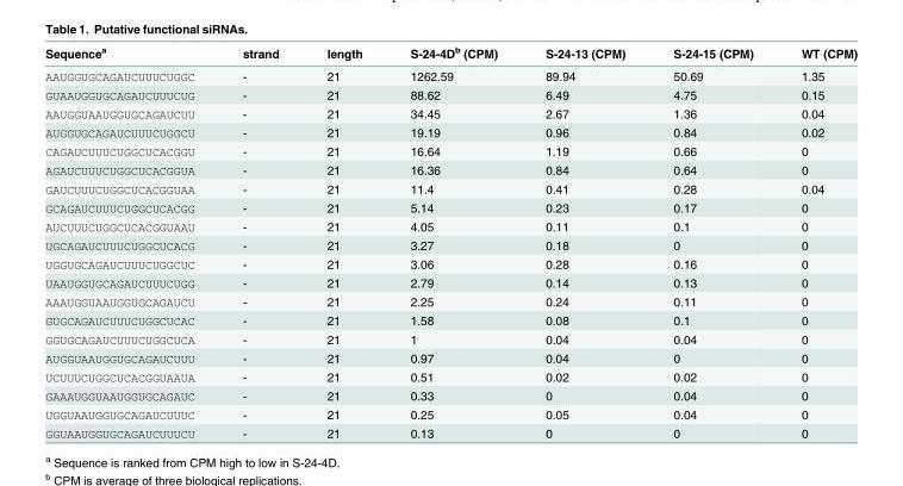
<table><thead><tr><td>Sequence<sup>a</sup></td><td>strand</td><td>length</td><td>S-24-4D<sup>b</sup> (CPM)</td><td>S-24-13 (CPM)</td><td>S-24-15 (CPM)</td><td>WT (CPM)</td></tr></thead><tbody><tr><td>AAUGGUGCAGAUCUUUCUGGC</td><td>-</td><td>21</td><td>1262.59</td><td>89.94</td><td>50.69</td><td>1.35</td></tr><tr><td>GUAAUGGUGCAGAUCUUUCUG</td><td>-</td><td>21</td><td>88.62</td><td>6.49</td><td>4.75</td><td>0.15</td></tr><tr><td>AAUGGUAAUGGUGCAGAUCUU</td><td>-</td><td>21</td><td>34.45</td><td>2.67</td><td>1.36</td><td>0.04</td></tr><tr><td>AUGGUGCAGAUCUUUCUGGCU</td><td>-</td><td>21</td><td>19.19</td><td>0.96</td><td>0.84</td><td>0.02</td></tr><tr><td>CAGAUCUUUCUGGCUCACGGU</td><td>-</td><td>21</td><td>16.64</td><td>1.19</td><td>0.66</td><td>0</td></tr><tr><td>AGAUCUUUCUGGCUCACGGUA</td><td>-</td><td>21</td><td>16.36</td><td>0.84</td><td>0.64</td><td>0</td></tr><tr><td>GAUCUUUCUGGCUCACGGUAA</td><td>-</td><td>21</td><td>11.4</td><td>0.41</td><td>0.28</td><td>0.04</td></tr><tr><td>GCAGAUCUUUCUGGCUCACGG</td><td>-</td><td>21</td><td>5.14</td><td>0.23</td><td>0.17</td><td>0</td></tr><tr><td>AUCUUUCUGGCUCACGGUAAU</td><td>-</td><td>21</td><td>4.05</td><td>0.11</td><td>0.1</td><td>0</td></tr><tr><td>UGCAGAUCUUUCUGGCUCACG</td><td>-</td><td>21</td><td>3.27</td><td>0.18</td><td>0</td><td>0</td></tr><tr><td>UGGUGCAGAUCUUUCUGGCUC</td><td>-</td><td>21</td><td>3.06</td><td>0.28</td><td>0.16</td><td>0</td></tr><tr><td>UAAUGGUGCAGAUCUUUCUGG</td><td>-</td><td>21</td><td>2.79</td><td>0.14</td><td>0.13</td><td>0</td></tr><tr><td>AAAUGGUAAUGGUGCAGAUCU</td><td>-</td><td>21</td><td>2.25</td><td>0.24</td><td>0.11</td><td>0</td></tr><tr><td>GUGCAGAUCUUUCUGGCUCAC</td><td>-</td><td>21</td><td>1.58</td><td>0.08</td><td>0.1</td><td>0</td></tr><tr><td>GGUGCAGAUCUUUCUGGCUCA</td><td>-</td><td>21</td><td>1</td><td>0.04</td><td>0.04</td><td>0</td></tr><tr><td>AUGGUAAUGGUGCAGAUCUUU</td><td>-</td><td>21</td><td>0.97</td><td>0.04</td><td>0</td><td>0</td></tr><tr><td>UCUUUCUGGCUCACGGUAAUA</td><td>-</td><td>21</td><td>0.51</td><td>0.02</td><td>0.02</td><td>0</td></tr><tr><td>GAAAUGGUAAUGGUGCAGAUC</td><td>-</td><td>21</td><td>0.33</td><td>0</td><td>0.04</td><td>0</td></tr><tr><td>UGGUAAUGGUGCAGAUCUUUC</td><td>-</td><td>21</td><td>0.25</td><td>0.05</td><td>0.04</td><td>0</td></tr><tr><td>GGUAAUGGUGCAGAUCUUUCU</td><td>-</td><td>21</td><td>0.13</td><td>0</td><td>0</td><td>0</td></tr></tbody></table>